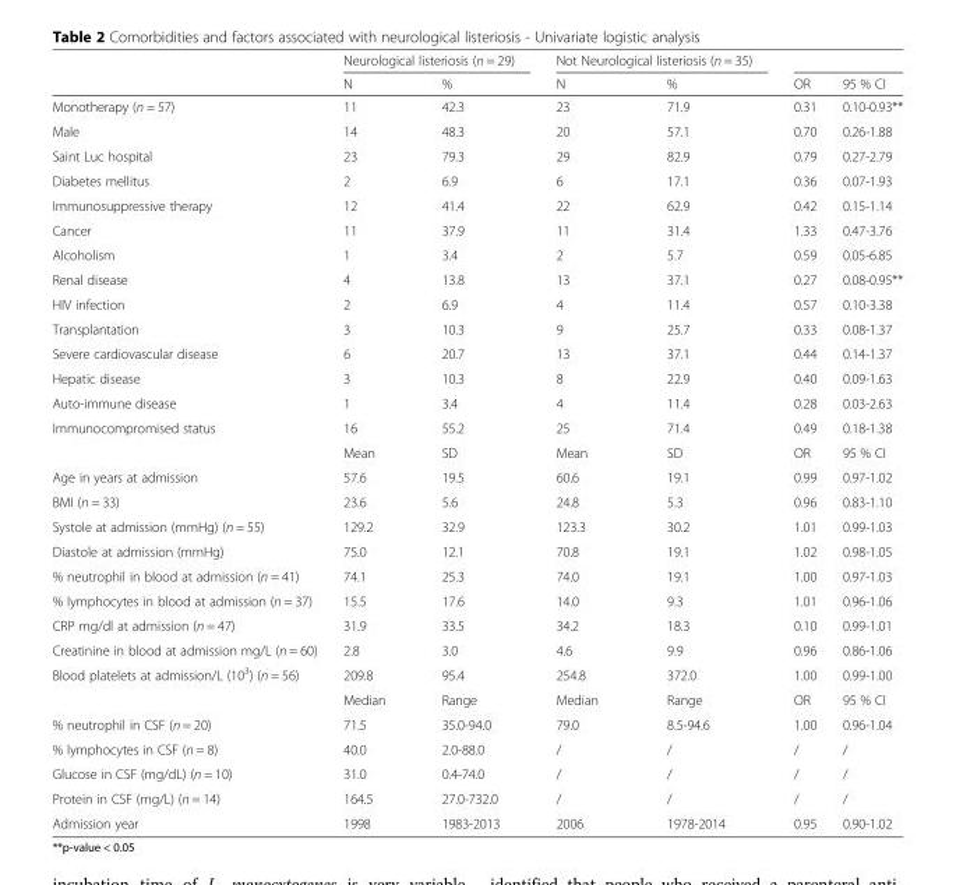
<table><thead><tr><td rowspan="2"></td><td colspan="2">Neurological listeriosis (n = 29)</td><td colspan="2">Not Neurological listeriosis (n = 35)</td><td rowspan="2">OR</td><td rowspan="2">95 % CI</td></tr><tr><td>N</td><td>%</td><td>N</td><td>%</td></tr></thead><tbody><tr><td>Monotherapy (n = 57)</td><td>11</td><td>42.3</td><td>23</td><td>71.9</td><td>0.31</td><td>0.10-0.93**</td></tr><tr><td>Male</td><td>14</td><td>48.3</td><td>20</td><td>57.1</td><td>0.70</td><td>0.26-1.88</td></tr><tr><td>Saint Luc hospital</td><td>23</td><td>79.3</td><td>29</td><td>82.9</td><td>0.79</td><td>0.27-2.79</td></tr><tr><td>Diabetes mellitus</td><td>2</td><td>6.9</td><td>6</td><td>17.1</td><td>0.36</td><td>0.07-1.93</td></tr><tr><td>Immunosuppressive therapy</td><td>12</td><td>41.4</td><td>22</td><td>62.9</td><td>0.42</td><td>0.15-1.14</td></tr><tr><td>Cancer</td><td>11</td><td>37.9</td><td>11</td><td>31.4</td><td>1.33</td><td>0.47-3.76</td></tr><tr><td>Alcoholism</td><td>1</td><td>3.4</td><td>2</td><td>5.7</td><td>0.59</td><td>0.05-6.85</td></tr><tr><td>Renal disease</td><td>4</td><td>13.8</td><td>13</td><td>37.1</td><td>0.27</td><td>0.08-0.95**</td></tr><tr><td>HIV infection</td><td>2</td><td>6.9</td><td>4</td><td>11.4</td><td>0.57</td><td>0.10-3.38</td></tr><tr><td>Transplantation</td><td>3</td><td>10.3</td><td>9</td><td>25.7</td><td>0.33</td><td>0.08-1.37</td></tr><tr><td>Severe cardiovascular disease</td><td>6</td><td>20.7</td><td>13</td><td>37.1</td><td>0.44</td><td>0.14-1.37</td></tr><tr><td>Hepatic disease</td><td>3</td><td>10.3</td><td>8</td><td>22.9</td><td>0.40</td><td>0.09-1.63</td></tr><tr><td>Auto-immune disease</td><td>1</td><td>3.4</td><td>4</td><td>11.4</td><td>0.28</td><td>0.03-2.63</td></tr><tr><td rowspan="2">Immunocompromised status</td><td>16</td><td>55.2</td><td>25</td><td>71.4</td><td>0.49</td><td>0.18-1.38</td></tr><tr><td>Mean</td><td>SD</td><td>Mean</td><td>SD</td><td>OR</td><td>95 % CI</td></tr><tr><td>Age in years at admission</td><td>57.6</td><td>19.5</td><td>60.6</td><td>19.1</td><td>0.99</td><td>0.97-1.02</td></tr><tr><td>BMI (n = 33)</td><td>23.6</td><td>5.6</td><td>24.8</td><td>5.3</td><td>0.96</td><td>0.83-1.10</td></tr><tr><td>Systole at admission (mmHg) (n = 55)</td><td>129.2</td><td>32.9</td><td>123.3</td><td>30.2</td><td>1.01</td><td>0.99-1.03</td></tr><tr><td>Diastole at admission (mmHg)</td><td>75.0</td><td>12.1</td><td>70.8</td><td>19.1</td><td>1.02</td><td>0.98-1.05</td></tr><tr><td>% neutrophil in blood at admission (n = 41)</td><td>74.1</td><td>25.3</td><td>74.0</td><td>19.1</td><td>1.00</td><td>0.97-1.03</td></tr><tr><td>% lymphocytes in blood at admission (n = 37)</td><td>15.5</td><td>17.6</td><td>14.0</td><td>9.3</td><td>1.01</td><td>0.96-1.06</td></tr><tr><td>CRP mg/dl at admission (n = 47)</td><td>31.9</td><td>33.5</td><td>34.2</td><td>18.3</td><td>0.10</td><td>0.99-1.01</td></tr><tr><td>Creatinine in blood at admission mg/L (n = 60)</td><td>2.8</td><td>3.0</td><td>4.6</td><td>9.9</td><td>0.96</td><td>0.86-1.06</td></tr><tr><td rowspan="2">Blood platelets at admission/L (10<sup>3</sup>) (n = 56)</td><td>209.8</td><td>95.4</td><td>254.8</td><td>372.0</td><td>1.00</td><td>0.99-1.00</td></tr><tr><td>Median</td><td>Range</td><td>Median</td><td>Range</td><td>OR</td><td>95 % CI</td></tr><tr><td>% neutrophil in CSF (n = 20)</td><td>71.5</td><td>35.0-94.0</td><td>79.0</td><td>8.5-94.6</td><td>1.00</td><td>0.96-1.04</td></tr><tr><td>% lymphocytes in CSF (n = 8)</td><td>40.0</td><td>2.0-88.0</td><td>/</td><td>/</td><td>/</td><td>/</td></tr><tr><td>Glucose in CSF (mg/dL) (n = 10)</td><td>31.0</td><td>0.4-74.0</td><td>/</td><td>/</td><td>/</td><td>/</td></tr><tr><td>Protein in CSF (mg/L) (n = 14)</td><td>164.5</td><td>27.0-732.0</td><td>/</td><td>/</td><td>/</td><td>/</td></tr><tr><td>Admission year</td><td>1998</td><td>1983-2013</td><td>2006</td><td>1978-2014</td><td>0.95</td><td>0.90-1.02</td></tr></tbody></table>